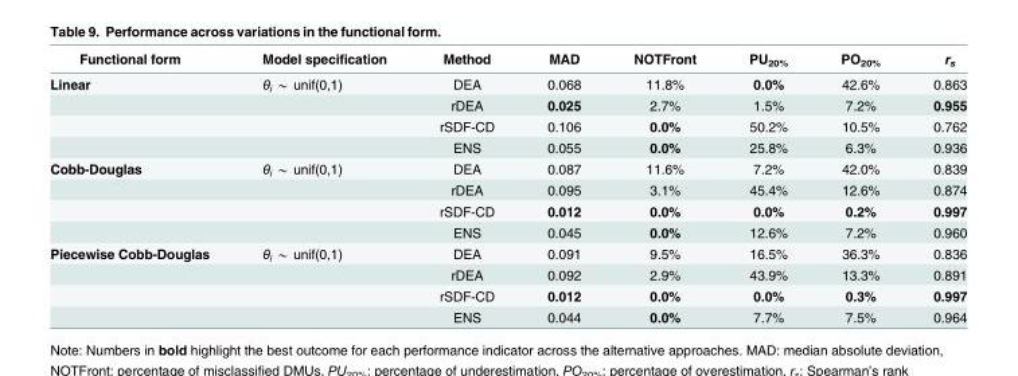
<table><thead><tr><td>Functional form</td><td>Model specification</td><td>Method</td><td>MAD</td><td>NOTFront</td><td>PU<sub>20%</sub></td><td>PO<sub>20%</sub></td><td>r<sub>s</sub></td></tr></thead><tbody><tr><td rowspan="4">Linear</td><td>θi * unif(0,1)</td><td>DEA</td><td>0.068</td><td>11.8%</td><td>0.0%</td><td>42.6%</td><td>0.863</td></tr><tr><td></td><td>rDEA</td><td>0.025</td><td>2.7%</td><td>1.5%</td><td>7.2%</td><td>0.955</td></tr><tr><td></td><td>rSDF-CD</td><td>0.106</td><td>0.0%</td><td>50.2%</td><td>10.5%</td><td>0.762</td></tr><tr><td></td><td>ENS</td><td>0.055</td><td>0.0%</td><td>25.8%</td><td>6.3%</td><td>0.936</td></tr><tr><td rowspan="4">Cobb-Douglas</td><td>θi * unif(0,1)</td><td>DEA</td><td>0.087</td><td>11.6%</td><td>7.2%</td><td>42.0%</td><td>0.839</td></tr><tr><td></td><td>rDEA</td><td>0.095</td><td>3.1%</td><td>45.4%</td><td>12.6%</td><td>0.874</td></tr><tr><td></td><td>rSDF-CD</td><td>0.012</td><td>0.0%</td><td>0.0%</td><td>0.2%</td><td>0.997</td></tr><tr><td></td><td>ENS</td><td>0.045</td><td>0.0%</td><td>12.6%</td><td>7.2%</td><td>0.960</td></tr><tr><td rowspan="4">Piecewise Cobb-Douglas</td><td>θi * unif(0,1)</td><td>DEA</td><td>0.091</td><td>9.5%</td><td>16.5%</td><td>36.3%</td><td>0.836</td></tr><tr><td></td><td>rDEA</td><td>0.092</td><td>2.9%</td><td>43.9%</td><td>13.3%</td><td>0.891</td></tr><tr><td></td><td>rSDF-CD</td><td>0.012</td><td>0.0%</td><td>0.0%</td><td>0.3%</td><td>0.997</td></tr><tr><td></td><td>ENS</td><td>0.044</td><td>0.0%</td><td>7.7%</td><td>7.5%</td><td>0.964</td></tr></tbody></table>